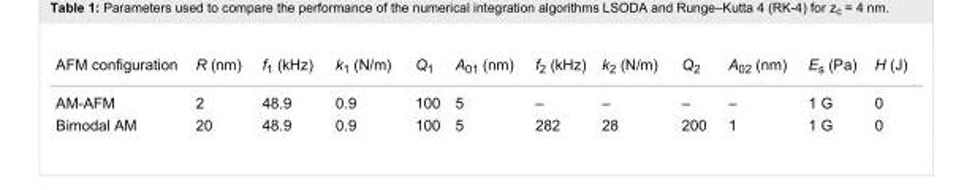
<table><tbody><tr><td>AFM configuration</td><td>R (nm)</td><td>f<sub>1</sub> (kHz)</td><td>k<sub>1</sub> (N/m)</td><td>Q<sub>1</sub></td><td>A<sub>01</sub> (nm)</td><td>f<sub>2</sub> (kHz)</td><td>k<sub>2</sub> (N/m)</td><td>Q<sub>2</sub></td><td>A<sub>02</sub> (nm)</td><td>E<sub>s</sub> (Pa)</td><td>H (J)</td></tr><tr><td>AM-AFM</td><td>2</td><td>48.9</td><td>0.9</td><td>100</td><td>5</td><td>–</td><td>–</td><td>–</td><td>–</td><td>1 G</td><td>0</td></tr><tr><td>Bimodal AM</td><td>20</td><td>48.9</td><td>0.9</td><td>100</td><td>5</td><td>282</td><td>28</td><td>200</td><td>1</td><td>1 G</td><td>0</td></tr></tbody></table>